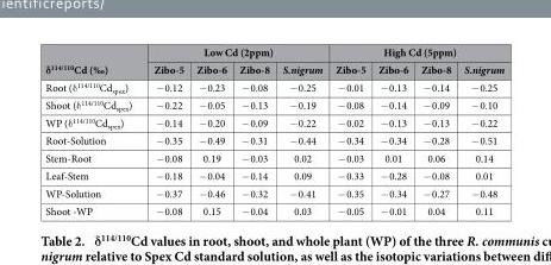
<table><thead><tr><td rowspan="2">δ<sup>114/110</sup>Cd (‰)</td><td colspan="4">Low Cd (2ppm)</td><td colspan="4">High Cd (5ppm)</td></tr><tr><td>Zibo-5</td><td>Zibo-6</td><td>Zibo-8</td><td>S.nigrum</td><td>Zibo-5</td><td>Zibo-6</td><td>Zibo-8</td><td>S.nigrum</td></tr></thead><tbody><tr><td>Root (δ <sup>114/110</sup>Cd<sub>spex</sub>)</td><td>− 0.12</td><td>− 0.23</td><td>− 0.08</td><td>− 0.25</td><td>− 0.01</td><td>− 0.13</td><td>− 0.14</td><td>− 0.25</td></tr><tr><td>Shoot (δ <sup>114/110</sup>Cd<sub>spex</sub>)</td><td>− 0.22</td><td>− 0.05</td><td>− 0.13</td><td>− 0.19</td><td>− 0.08</td><td>− 0.14</td><td>− 0.09</td><td>− 0.10</td></tr><tr><td>WP (δ <sup>114/110</sup>Cd<sub>spex</sub>)</td><td>− 0.14</td><td>− 0.20</td><td>− 0.09</td><td>− 0.22</td><td>− 0.02</td><td>− 0.13</td><td>− 0.13</td><td>− 0.22</td></tr><tr><td>Root-Solution</td><td>− 0.35</td><td>− 0.49</td><td>− 0.31</td><td>− 0.44</td><td>− 0.34</td><td>− 0.34</td><td>− 0.28</td><td>− 0.51</td></tr><tr><td>Stem-Root</td><td>− 0.08</td><td>0.19</td><td>− 0.03</td><td>0.02</td><td>− 0.03</td><td>0.01</td><td>0.06</td><td>0.14</td></tr><tr><td>Leaf-Stem</td><td>− 0.18</td><td>− 0.04</td><td>− 0.14</td><td>0.09</td><td>− 0.33</td><td>− 0.28</td><td>− 0.08</td><td>0.01</td></tr><tr><td>WP-Solution</td><td>− 0.37</td><td>− 0.46</td><td>− 0.32</td><td>− 0.41</td><td>− 0.35</td><td>− 0.34</td><td>− 0.27</td><td>− 0.48</td></tr><tr><td>Shoot -WP</td><td>− 0.08</td><td>0.15</td><td>− 0.04</td><td>0.03</td><td>− 0.05</td><td>− 0.01</td><td>0.04</td><td>0.11</td></tr></tbody></table>